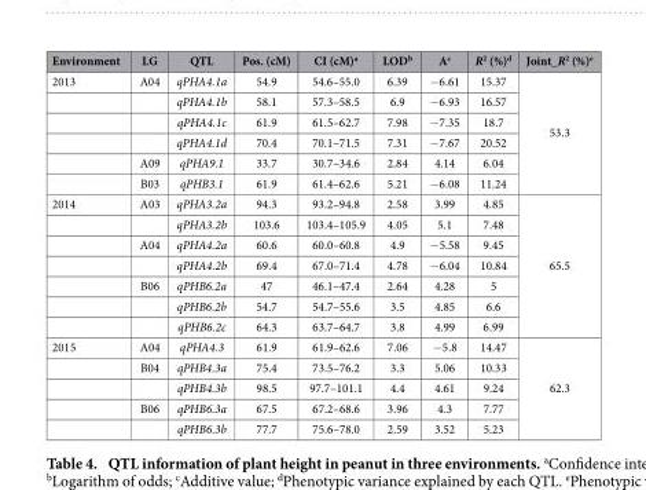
<table><thead><tr><td>Environment</td><td>LG</td><td>QTL</td><td>Pos. (cM)</td><td>CI (cM)<sup>a</sup></td><td>LOD<sup>b</sup></td><td>A<sup>c</sup></td><td>R<sup>2</sup> (%)<sup>d</sup></td><td>Joint_R<sup>2</sup> (%)<sup>e</sup></td></tr></thead><tbody><tr><td rowspan="6">2013</td><td>A04</td><td>qPHA4.1a</td><td>54.9</td><td>54.6–55.0</td><td>6.39</td><td>− 6.61</td><td>15.37</td><td rowspan="6">53.3</td></tr><tr><td></td><td>qPHA4.1b</td><td>58.1</td><td>57.3–58.5</td><td>6.9</td><td>− 6.93</td><td>16.57</td></tr><tr><td></td><td>qPHA4.1c</td><td>61.9</td><td>61.5–62.7</td><td>7.98</td><td>− 7.35</td><td>18.7</td></tr><tr><td></td><td>qPHA4.1d</td><td>70.4</td><td>70.1–71.5</td><td>7.31</td><td>− 7.67</td><td>20.52</td></tr><tr><td>A09</td><td>qPHA9.1</td><td>33.7</td><td>30.7–34.6</td><td>2.84</td><td>4.14</td><td>6.04</td></tr><tr><td>B03</td><td>qPHB3.1</td><td>61.9</td><td>61.4–62.6</td><td>5.21</td><td>− 6.08</td><td>11.24</td></tr><tr><td rowspan="7">2014</td><td>A03</td><td>qPHA3.2a</td><td>94.3</td><td>93.2–94.8</td><td>2.58</td><td>3.99</td><td>4.85</td><td rowspan="7">65.5</td></tr><tr><td></td><td>qPHA3.2b</td><td>103.6</td><td>103.4–105.9</td><td>4.05</td><td>5.1</td><td>7.48</td></tr><tr><td>A04</td><td>qPHA4.2a</td><td>60.6</td><td>60.0–60.8</td><td>4.9</td><td>− 5.58</td><td>9.45</td></tr><tr><td></td><td>qPHA4.2b</td><td>69.4</td><td>67.0–71.4</td><td>4.78</td><td>− 6.04</td><td>10.84</td></tr><tr><td>B06</td><td>qPHB6.2a</td><td>47</td><td>46.1–47.4</td><td>2.64</td><td>4.28</td><td>5</td></tr><tr><td></td><td>qPHB6.2b</td><td>54.7</td><td>54.7–55.6</td><td>3.5</td><td>4.85</td><td>6.6</td></tr><tr><td></td><td>qPHB6.2c</td><td>64.3</td><td>63.7–64.7</td><td>3.8</td><td>4.99</td><td>6.99</td></tr><tr><td rowspan="5">2015</td><td>A04</td><td>qPHA4.3</td><td>61.9</td><td>61.9–62.6</td><td>7.06</td><td>− 5.8</td><td>14.47</td><td rowspan="5">62.3</td></tr><tr><td>B04</td><td>qPHB4.3a</td><td>75.4</td><td>73.5–76.2</td><td>3.3</td><td>5.06</td><td>10.33</td></tr><tr><td></td><td>qPHB4.3b</td><td>98.5</td><td>97.7–101.1</td><td>4.4</td><td>4.61</td><td>9.24</td></tr><tr><td>B06</td><td>qPHB6.3a</td><td>67.5</td><td>67.2–68.6</td><td>3.96</td><td>4.3</td><td>7.77</td></tr><tr><td></td><td>qPHB6.3b</td><td>77.7</td><td>75.6–78.0</td><td>2.59</td><td>3.52</td><td>5.23</td></tr></tbody></table>